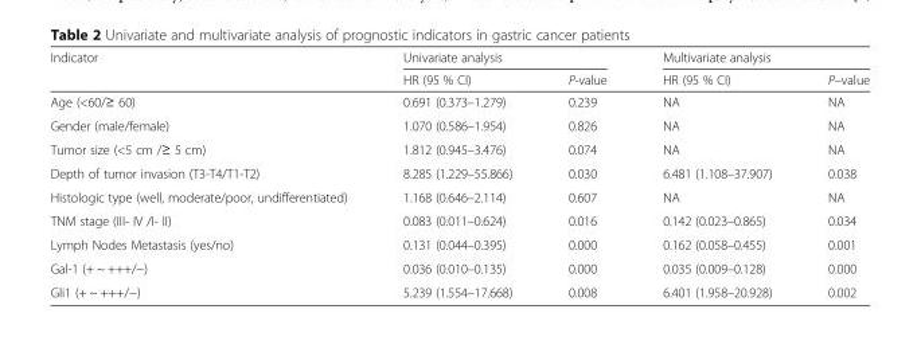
<table><thead><tr><td rowspan="2">Indicator</td><td colspan="2">Univariate analysis</td><td colspan="2">Multivariate analysis</td></tr><tr><td>HR (95 % CI)</td><td>P-value</td><td>HR (95 % CI)</td><td>P–value</td></tr></thead><tbody><tr><td>Age (&lt;60/≥ 60)</td><td>0.691 (0.373–1.279)</td><td>0.239</td><td>NA</td><td>NA</td></tr><tr><td>Gender (male/female)</td><td>1.070 (0.586–1.954)</td><td>0.826</td><td>NA</td><td>NA</td></tr><tr><td>Tumor size (&lt;5 cm /≥ 5 cm)</td><td>1.812 (0.945–3.476)</td><td>0.074</td><td>NA</td><td>NA</td></tr><tr><td>Depth of tumor invasion (T3-T4/T1-T2)</td><td>8.285 (1.229–55.866)</td><td>0.030</td><td>6.481 (1.108–37.907)</td><td>0.038</td></tr><tr><td>Histologic type (well, moderate/poor, undifferentiated)</td><td>1.168 (0.646–2.114)</td><td>0.607</td><td>NA</td><td>NA</td></tr><tr><td>TNM stage (III- IV /I- II)</td><td>0.083 (0.011–0.624)</td><td>0.016</td><td>0.142 (0.023–0.865)</td><td>0.034</td></tr><tr><td>Lymph Nodes Metastasis (yes/no)</td><td>0.131 (0.044–0.395)</td><td>0.000</td><td>0.162 (0.058–0.455)</td><td>0.001</td></tr><tr><td>Gal-1 (+ ~ +++/−)</td><td>0.036 (0.010–0.135)</td><td>0.000</td><td>0.035 (0.009–0.128)</td><td>0.000</td></tr><tr><td>Gli1 (+ ~ +++/−)</td><td>5.239 (1.554–17.668)</td><td>0.008</td><td>6.401 (1.958–20.928)</td><td>0.002</td></tr></tbody></table>